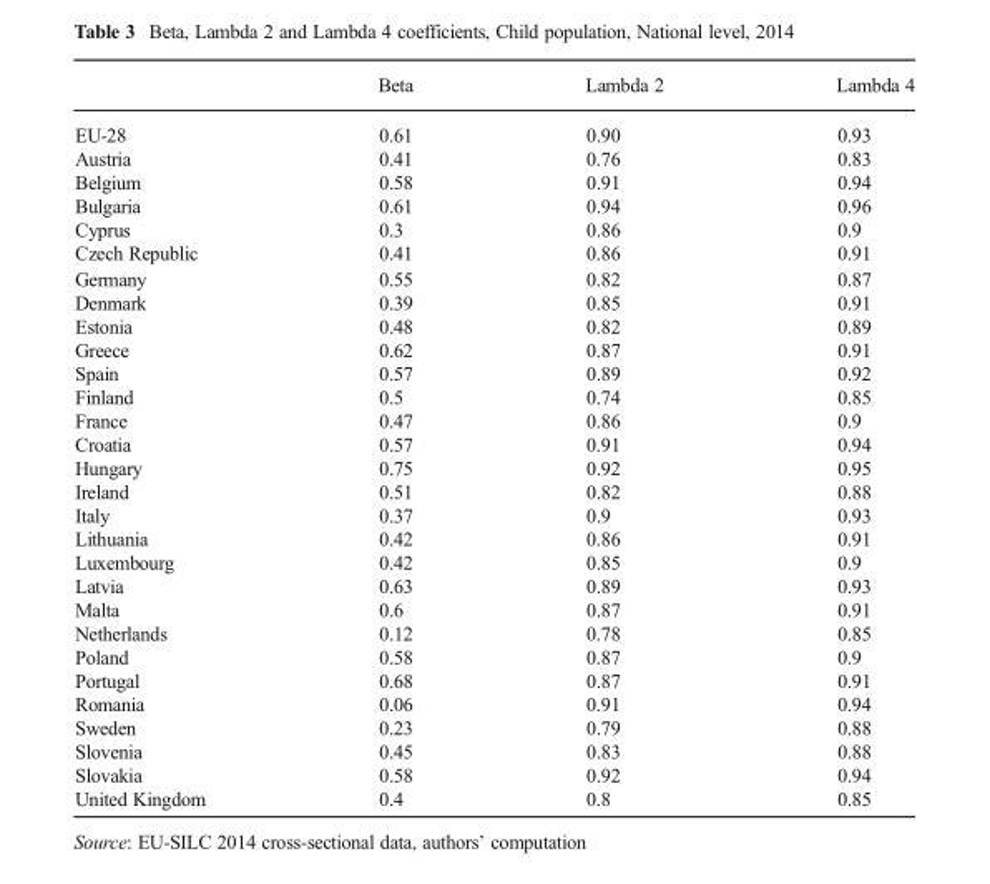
<table><thead><tr><td></td><td>Beta</td><td>Lambda 2</td><td>Lambda 4</td></tr></thead><tbody><tr><td>EU-28</td><td>0.61</td><td>0.90</td><td>0.93</td></tr><tr><td>Austria</td><td>0.41</td><td>0.76</td><td>0.83</td></tr><tr><td>Belgium</td><td>0.58</td><td>0.91</td><td>0.94</td></tr><tr><td>Bulgaria</td><td>0.61</td><td>0.94</td><td>0.96</td></tr><tr><td>Cyprus</td><td>0.3</td><td>0.86</td><td>0.9</td></tr><tr><td>Czech Republic</td><td>0.41</td><td>0.86</td><td>0.91</td></tr><tr><td>Germany</td><td>0.55</td><td>0.82</td><td>0.87</td></tr><tr><td>Denmark</td><td>0.39</td><td>0.85</td><td>0.91</td></tr><tr><td>Estonia</td><td>0.48</td><td>0.82</td><td>0.89</td></tr><tr><td>Greece</td><td>0.62</td><td>0.87</td><td>0.91</td></tr><tr><td>Spain</td><td>0.57</td><td>0.89</td><td>0.92</td></tr><tr><td>Finland</td><td>0.5</td><td>0.74</td><td>0.85</td></tr><tr><td>France</td><td>0.47</td><td>0.86</td><td>0.9</td></tr><tr><td>Croatia</td><td>0.57</td><td>0.91</td><td>0.94</td></tr><tr><td>Hungary</td><td>0.75</td><td>0.92</td><td>0.95</td></tr><tr><td>Ireland</td><td>0.51</td><td>0.82</td><td>0.88</td></tr><tr><td>Italy</td><td>0.37</td><td>0.9</td><td>0.93</td></tr><tr><td>Lithuania</td><td>0.42</td><td>0.86</td><td>0.91</td></tr><tr><td>Luxembourg</td><td>0.42</td><td>0.85</td><td>0.9</td></tr><tr><td>Latvia</td><td>0.63</td><td>0.89</td><td>0.93</td></tr><tr><td>Malta</td><td>0.6</td><td>0.87</td><td>0.91</td></tr><tr><td>Netherlands</td><td>0.12</td><td>0.78</td><td>0.85</td></tr><tr><td>Poland</td><td>0.58</td><td>0.87</td><td>0.9</td></tr><tr><td>Portugal</td><td>0.68</td><td>0.87</td><td>0.91</td></tr><tr><td>Romania</td><td>0.06</td><td>0.91</td><td>0.94</td></tr><tr><td>Sweden</td><td>0.23</td><td>0.79</td><td>0.88</td></tr><tr><td>Slovenia</td><td>0.45</td><td>0.83</td><td>0.88</td></tr><tr><td>Slovakia</td><td>0.58</td><td>0.92</td><td>0.94</td></tr><tr><td>United Kingdom</td><td>0.4</td><td>0.8</td><td>0.85</td></tr></tbody></table>